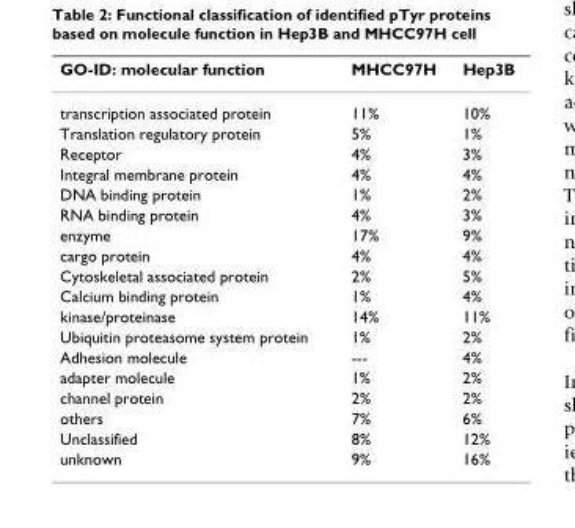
<table><thead><tr><td>GO-ID: molecular function</td><td>MHCC97H</td><td>Hep3B</td></tr></thead><tbody><tr><td>transcription associated protein</td><td>11%</td><td>10%</td></tr><tr><td>Translation regulatory protein</td><td>5%</td><td>1%</td></tr><tr><td>Receptor</td><td>4%</td><td>3%</td></tr><tr><td>Integral membrane protein</td><td>4%</td><td>4%</td></tr><tr><td>DNA binding protein</td><td>1%</td><td>2%</td></tr><tr><td>RNA binding protein</td><td>4%</td><td>3%</td></tr><tr><td>enzyme</td><td>17%</td><td>9%</td></tr><tr><td>cargo protein</td><td>4%</td><td>4%</td></tr><tr><td>Cytoskeletal associated protein</td><td>2%</td><td>5%</td></tr><tr><td>Calcium binding protein</td><td>1%</td><td>4%</td></tr><tr><td>kinase/proteinase</td><td>14%</td><td>11%</td></tr><tr><td>Ubiquitin proteasome system protein</td><td>1%</td><td>2%</td></tr><tr><td>Adhesion molecule</td><td>---</td><td>4%</td></tr><tr><td>adapter molecule</td><td>1%</td><td>2%</td></tr><tr><td>channel protein</td><td>2%</td><td>2%</td></tr><tr><td>others</td><td>7%</td><td>6%</td></tr><tr><td>Unclassified</td><td>8%</td><td>12%</td></tr><tr><td>unknown</td><td>9%</td><td>16%</td></tr></tbody></table>